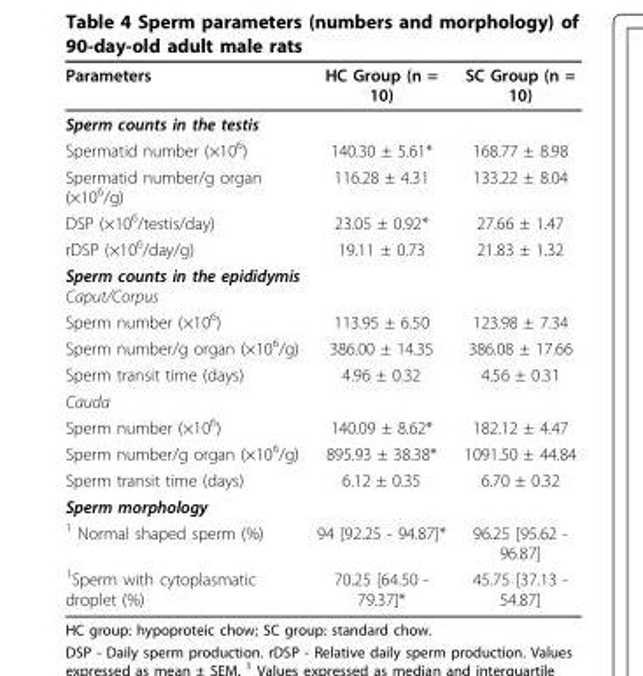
<table><thead><tr><td>Parameters</td><td>HC Group (n = 10)</td><td>SC Group (n = 10)</td></tr></thead><tbody><tr><td colspan="3">Sperm counts in the testis</td></tr><tr><td>Spermatid number (×10<sup>6</sup>)</td><td>140.30 ± 5.61*</td><td>168.77 ± 8.98</td></tr><tr><td>Spermatid number/g organ (×10<sup>6</sup>/g)</td><td>116.28 ± 4.31</td><td>133.22 ± 8.04</td></tr><tr><td>DSP (×10<sup>6</sup>/testis/day)</td><td>23.05 ± 0.92*</td><td>27.66 ± 1.47</td></tr><tr><td>rDSP (×10<sup>6</sup>/day/g)</td><td>19.11 ± 0.73</td><td>21.83 ± 1.32</td></tr><tr><td colspan="3">Sperm counts in the epididymis Caput/Corpus</td></tr><tr><td>Sperm number (×10<sup>6</sup>)</td><td>113.95 ± 6.50</td><td>123.98 ± 7.34</td></tr><tr><td>Sperm number/g organ (×10<sup>6</sup>/g)</td><td>386.00 ± 14.35</td><td>386.08 ± 17.66</td></tr><tr><td>Sperm transit time (days)</td><td>4.96 ± 0.32</td><td>4.56 ± 0.31</td></tr><tr><td colspan="3">Cauda</td></tr><tr><td>Sperm number (×10<sup>6</sup>)</td><td>140.09 ± 8.62*</td><td>182.12 ± 4.47</td></tr><tr><td>Sperm number/g organ (×10<sup>6</sup>/g)</td><td>895.93 ± 38.38*</td><td>1091.50 ± 44.84</td></tr><tr><td>Sperm transit time (days)</td><td>6.12 ± 0.35</td><td>6.70 ± 0.32</td></tr><tr><td colspan="3">Sperm morphology</td></tr><tr><td><sup>1</sup> Normal shaped sperm (%)</td><td>94 [92.25 - 94.87]*</td><td>96.25 [95.62 - 96.87]</td></tr><tr><td><sup>1</sup>Sperm with cytoplasmatic droplet (%)</td><td>70.25 [64.50 - 79.37]*</td><td>45.75 [37.13 - 54.87]</td></tr></tbody></table>